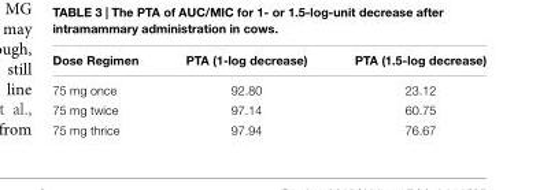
<table><thead><tr><td>Dose Regimen</td><td>PTA (1-log decrease)</td><td>PTA (1.5-log decrease)</td></tr></thead><tbody><tr><td>75 mg once</td><td>92.80</td><td>23.12</td></tr><tr><td>75 mg twice</td><td>97.14</td><td>60.75</td></tr><tr><td>75 mg thrice</td><td>97.94</td><td>76.67</td></tr></tbody></table>